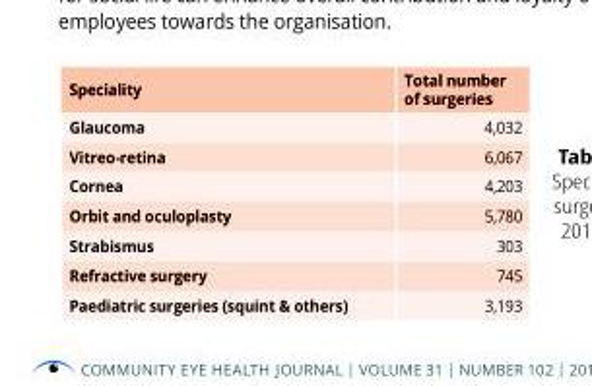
<table><thead><tr><td>Speciality</td><td>Total number of surgeries</td></tr></thead><tbody><tr><td>Glaucoma</td><td>4,032</td></tr><tr><td>Vitreo-retina</td><td>6,067</td></tr><tr><td>Cornea</td><td>4,203</td></tr><tr><td>Orbit and oculoplasty</td><td>5,780</td></tr><tr><td>Strabismus</td><td>303</td></tr><tr><td>Refractive surgery</td><td>745</td></tr><tr><td>Paediatric surgeries (squint &amp; others)</td><td>3,193</td></tr></tbody></table>